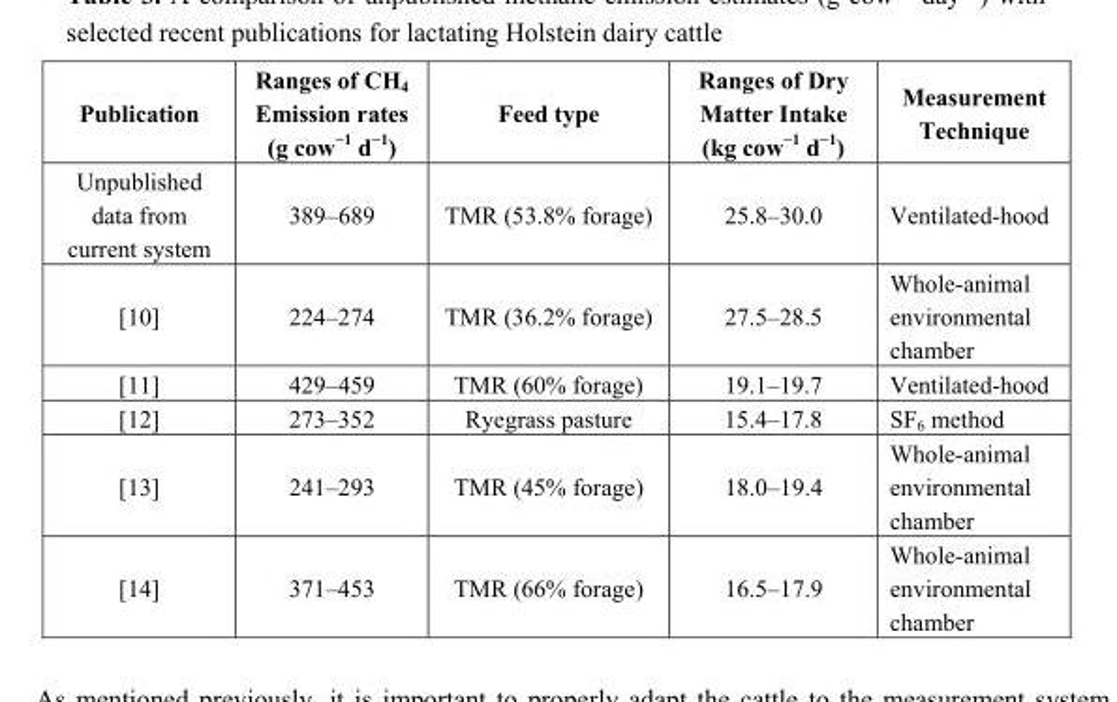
<table><thead><tr><td>Publication</td><td>Ranges of CH<sub>4</sub> Emission rates (g cow<sup>−1</sup> d<sup>−1</sup>)</td><td>Feed type</td><td>Ranges of Dry Matter Intake (kg cow<sup>−1</sup> d<sup>−1</sup>)</td><td>Measurement Technique</td></tr></thead><tbody><tr><td>Unpublished data from current system</td><td>389–689</td><td>TMR (53.8% forage)</td><td>25.8–30.0</td><td>Ventilated-hood</td></tr><tr><td>[10]</td><td>224–274</td><td>TMR (36.2% forage)</td><td>27.5–28.5</td><td>Whole-animal environmental chamber</td></tr><tr><td>[11]</td><td>429–459</td><td>TMR (60% forage)</td><td>19.1–19.7</td><td>Ventilated-hood</td></tr><tr><td>[12]</td><td>273–352</td><td>Ryegrass pasture</td><td>15.4–17.8</td><td>SF<sub>6</sub> method</td></tr><tr><td>[13]</td><td>241–293</td><td>TMR (45% forage)</td><td>18.0–19.4</td><td>Whole-animal environmental chamber</td></tr><tr><td>[14]</td><td>371–453</td><td>TMR (66% forage)</td><td>16.5–17.9</td><td>Whole-animal environmental chamber</td></tr></tbody></table>